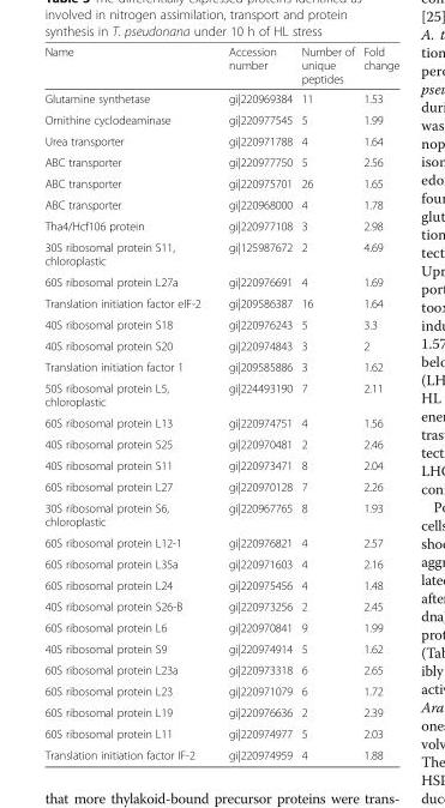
<table><thead><tr><td>Name</td><td>Accession number</td><td>Number of unique peptides</td><td>Fold change</td></tr></thead><tbody><tr><td>Glutamine synthetase</td><td>gi|220969384</td><td>11</td><td>1.53</td></tr><tr><td>Ornithine cyclodeaminase</td><td>gi|220977545</td><td>5</td><td>1.99</td></tr><tr><td>Urea transporter</td><td>gi|220971788</td><td>4</td><td>1.64</td></tr><tr><td>ABC transporter</td><td>gi|220977750</td><td>5</td><td>2.56</td></tr><tr><td>ABC transporter</td><td>gi|220975701</td><td>26</td><td>1.65</td></tr><tr><td>ABC transporter</td><td>gi|220968000</td><td>4</td><td>1.78</td></tr><tr><td>Tha4/Hcf106 protein</td><td>gi|220977108</td><td>3</td><td>2.98</td></tr><tr><td>30S ribosomal protein S11, chloroplastic</td><td>gi|125987672</td><td>2</td><td>4.69</td></tr><tr><td>60S ribosomal protein L27a</td><td>gi|220976691</td><td>4</td><td>1.69</td></tr><tr><td>Translation initiation factor eIF-2</td><td>gi|209586387</td><td>16</td><td>1.64</td></tr><tr><td>40S ribosomal protein S18</td><td>gi|220976243</td><td>5</td><td>3.3</td></tr><tr><td>40S ribosomal protein S20</td><td>gi|220974843</td><td>3</td><td>2</td></tr><tr><td>Translation initiation factor 1</td><td>gi|209585886</td><td>3</td><td>1.62</td></tr><tr><td>50S ribosomal protein L5, chloroplastic</td><td>gi|224493190</td><td>7</td><td>2.11</td></tr><tr><td>60S ribosomal protein L13</td><td>gi|220974751</td><td>4</td><td>1.56</td></tr><tr><td>40S ribosomal protein S25</td><td>gi|220970481</td><td>2</td><td>2.46</td></tr><tr><td>40S ribosomal protein S11</td><td>gi|220973471</td><td>8</td><td>2.04</td></tr><tr><td>60S ribosomal protein L27</td><td>gi|220970128</td><td>7</td><td>2.26</td></tr><tr><td>30S ribosomal protein S6, chloroplastic</td><td>gi|220967765</td><td>8</td><td>1.93</td></tr><tr><td>60S ribosomal protein L12-1</td><td>gi|220976821</td><td>4</td><td>2.57</td></tr><tr><td>60S ribosomal protein L35a</td><td>gi|220971603</td><td>4</td><td>2.16</td></tr><tr><td>60S ribosomal protein L24</td><td>gi|220975456</td><td>4</td><td>1.48</td></tr><tr><td>40S ribosomal protein S26-B</td><td>gi|220973256</td><td>2</td><td>2.45</td></tr><tr><td>60S ribosomal protein L6</td><td>gi|220970841</td><td>9</td><td>1.99</td></tr><tr><td>40S ribosomal protein S9</td><td>gi|220974914</td><td>5</td><td>1.62</td></tr><tr><td>60S ribosomal protein L23a</td><td>gi|220973318</td><td>6</td><td>2.65</td></tr><tr><td>60S ribosomal protein L23</td><td>gi|220971079</td><td>6</td><td>1.72</td></tr><tr><td>60S ribosomal protein L19</td><td>gi|220976636</td><td>2</td><td>2.39</td></tr><tr><td>60S ribosomal protein L11</td><td>gi|220974977</td><td>5</td><td>2.03</td></tr><tr><td>Translation initiation factor IF-2</td><td>gi|220974959</td><td>4</td><td>1.88</td></tr></tbody></table>